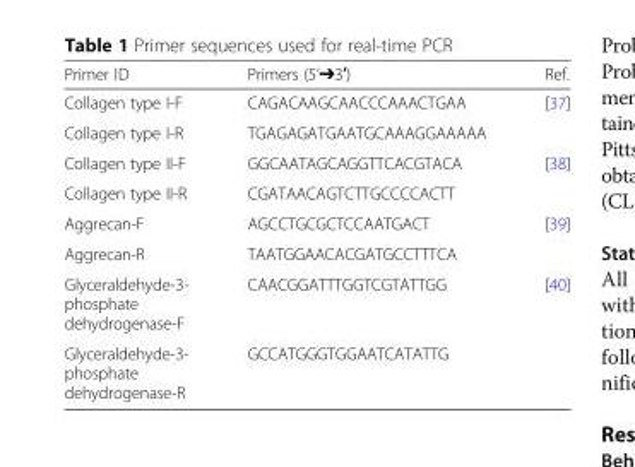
<table><thead><tr><td>Primer ID</td><td>Primers (5’➔3′)</td><td>Ref.</td></tr></thead><tbody><tr><td>Collagen type I-F</td><td>CAGACAAGCAACCCAAACTGAA</td><td rowspan="2">[37]</td></tr><tr><td>Collagen type I-R</td><td>TGAGAGATGAATGCAAAGGAAAAA</td></tr><tr><td>Collagen type II-F</td><td>GGCAATAGCAGGTTCACGTACA</td><td rowspan="2">[38]</td></tr><tr><td>Collagen type II-R</td><td>CGATAACAGTCTTGCCCCACTT</td></tr><tr><td>Aggrecan-F</td><td>AGCCTGCGCTCCAATGACT</td><td rowspan="2">[39]</td></tr><tr><td>Aggrecan-R</td><td>TAATGGAACACGATGCCTTTCA</td></tr><tr><td>Glyceraldehyde-3- phosphate dehydrogenase-F</td><td>CAACGGATTTGGTCGTATTGG</td><td rowspan="2">[40]</td></tr><tr><td>Glyceraldehyde-3- phosphate dehydrogenase-R</td><td>GCCATGGGTGGAATCATATTG</td></tr></tbody></table>